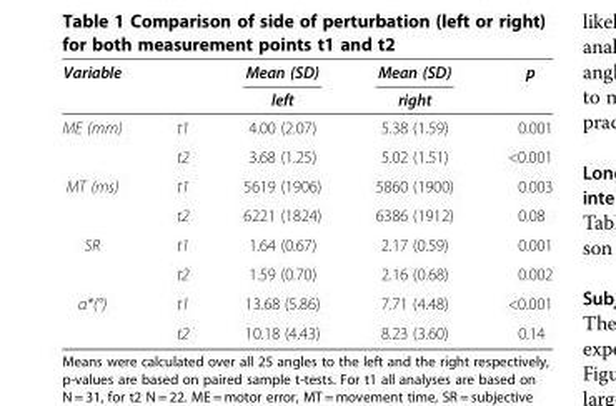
<table><thead><tr><td rowspan="2">Variable</td><td rowspan="2"></td><td rowspan="2">Mean (SD) left</td><td rowspan="2">Mean (SD) right</td><td rowspan="2">p</td></tr><tr></tr></thead><tbody><tr><td rowspan="2">ME (mm)</td><td>t1</td><td>4.00 (2.07)</td><td>5.38 (1.59)</td><td>0.001</td></tr><tr><td>t2</td><td>3.68 (1.25)</td><td>5.02 (1.51)</td><td>&lt;0.001</td></tr><tr><td rowspan="2">MT (ms)</td><td>t1</td><td>5619 (1906)</td><td>5860 (1900)</td><td>0.003</td></tr><tr><td>t2</td><td>6221 (1824)</td><td>6386 (1912)</td><td>0.08</td></tr><tr><td rowspan="2">SR</td><td>t1</td><td>1.64 (0.67)</td><td>2.17 (0.59)</td><td>0.001</td></tr><tr><td>t2</td><td>1.59 (0.70)</td><td>2.16 (0.68)</td><td>0.002</td></tr><tr><td rowspan="2">α*(°)</td><td>t1</td><td>13.68 (5.86)</td><td>7.71 (4.48)</td><td>&lt;0.001</td></tr><tr><td>t2</td><td>10.18 (4.43)</td><td>8.23 (3.60)</td><td>0.14</td></tr></tbody></table>